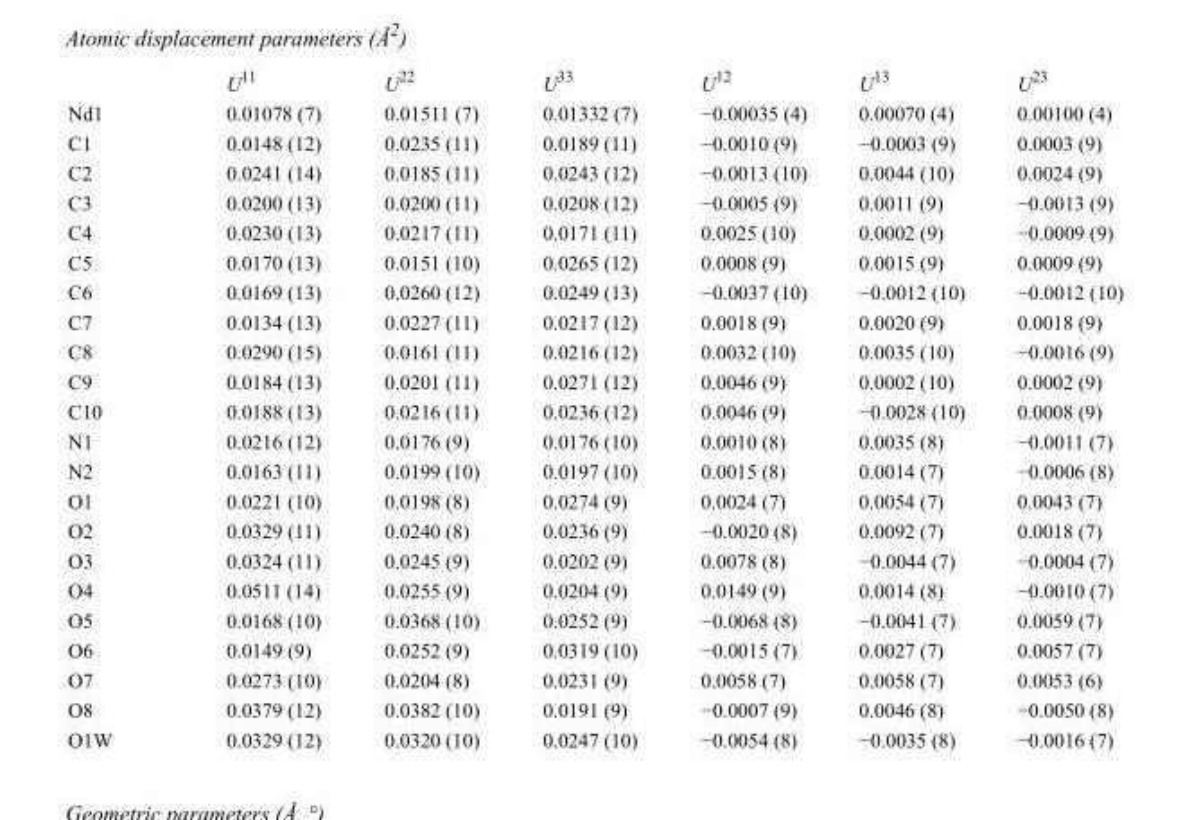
<table><thead><tr><td></td><td>U<sup>11</sup></td><td>U<sup>22</sup></td><td>U<sup>33</sup></td><td>U<sup>12</sup></td><td>U<sup>13</sup></td><td>U<sup>23</sup></td></tr></thead><tbody><tr><td>Nd1</td><td>0.01078 (7)</td><td>0.01511 (7)</td><td>0.01332 (7)</td><td>−0.00035 (4)</td><td>0.00070 (4)</td><td>0.00100 (4)</td></tr><tr><td>C1</td><td>0.0148 (12)</td><td>0.0235 (11)</td><td>0.0189 (11)</td><td>−0.0010 (9)</td><td>−0.0003 (9)</td><td>0.0003 (9)</td></tr><tr><td>C2</td><td>0.0241 (14)</td><td>0.0185 (11)</td><td>0.0243 (12)</td><td>−0.0013 (10)</td><td>0.0044 (10)</td><td>0.0024 (9)</td></tr><tr><td>C3</td><td>0.0200 (13)</td><td>0.0200 (11)</td><td>0.0208 (12)</td><td>−0.0005 (9)</td><td>0.0011 (9)</td><td>−0.0013 (9)</td></tr><tr><td>C4</td><td>0.0230 (13)</td><td>0.0217 (11)</td><td>0.0171 (11)</td><td>0.0025 (10)</td><td>0.0002 (9)</td><td>−0.0009 (9)</td></tr><tr><td>C5</td><td>0.0170 (13)</td><td>0.0151 (10)</td><td>0.0265 (12)</td><td>0.0008 (9)</td><td>0.0015 (9)</td><td>0.0009 (9)</td></tr><tr><td>C6</td><td>0.0169 (13)</td><td>0.0260 (12)</td><td>0.0249 (13)</td><td>−0.0037 (10)</td><td>−0.0012 (10)</td><td>−0.0012 (10)</td></tr><tr><td>C7</td><td>0.0134 (13)</td><td>0.0227 (11)</td><td>0.0217 (12)</td><td>0.0018 (9)</td><td>0.0020 (9)</td><td>0.0018 (9)</td></tr><tr><td>C8</td><td>0.0290 (15)</td><td>0.0161 (11)</td><td>0.0216 (12)</td><td>0.0032 (10)</td><td>0.0035 (10)</td><td>−0.0016 (9)</td></tr><tr><td>C9</td><td>0.0184 (13)</td><td>0.0201 (11)</td><td>0.0271 (12)</td><td>0.0046 (9)</td><td>0.0002 (10)</td><td>0.0002 (9)</td></tr><tr><td>C10</td><td>0.0188 (13)</td><td>0.0216 (11)</td><td>0.0236 (12)</td><td>0.0046 (9)</td><td>−0.0028 (10)</td><td>0.0008 (9)</td></tr><tr><td>N1</td><td>0.0216 (12)</td><td>0.0176 (9)</td><td>0.0176 (10)</td><td>0.0010 (8)</td><td>0.0035 (8)</td><td>−0.0011 (7)</td></tr><tr><td>N2</td><td>0.0163 (11)</td><td>0.0199 (10)</td><td>0.0197 (10)</td><td>0.0015 (8)</td><td>0.0014 (7)</td><td>−0.0006 (8)</td></tr><tr><td>O1</td><td>0.0221 (10)</td><td>0.0198 (8)</td><td>0.0274 (9)</td><td>0.0024 (7)</td><td>0.0054 (7)</td><td>0.0043 (7)</td></tr><tr><td>O2</td><td>0.0329 (11)</td><td>0.0240 (8)</td><td>0.0236 (9)</td><td>−0.0020 (8)</td><td>0.0092 (7)</td><td>0.0018 (7)</td></tr><tr><td>O3</td><td>0.0324 (11)</td><td>0.0245 (9)</td><td>0.0202 (9)</td><td>0.0078 (8)</td><td>−0.0044 (7)</td><td>−0.0004 (7)</td></tr><tr><td>O4</td><td>0.0511 (14)</td><td>0.0255 (9)</td><td>0.0204 (9)</td><td>0.0149 (9)</td><td>0.0014 (8)</td><td>−0.0010 (7)</td></tr><tr><td>O5</td><td>0.0168 (10)</td><td>0.0368 (10)</td><td>0.0252 (9)</td><td>−0.0068 (8)</td><td>−0.0041 (7)</td><td>0.0059 (7)</td></tr><tr><td>O6</td><td>0.0149 (9)</td><td>0.0252 (9)</td><td>0.0319 (10)</td><td>−0.0015 (7)</td><td>0.0027 (7)</td><td>0.0057 (7)</td></tr><tr><td>O7</td><td>0.0273 (10)</td><td>0.0204 (8)</td><td>0.0231 (9)</td><td>0.0058 (7)</td><td>0.0058 (7)</td><td>0.0053 (6)</td></tr><tr><td>O8</td><td>0.0379 (12)</td><td>0.0382 (10)</td><td>0.0191 (9)</td><td>−0.0007 (9)</td><td>0.0046 (8)</td><td>−0.0050 (8)</td></tr><tr><td>O1W</td><td>0.0329 (12)</td><td>0.0320 (10)</td><td>0.0247 (10)</td><td>−0.0054 (8)</td><td>−0.0035 (8)</td><td>−0.0016 (7)</td></tr></tbody></table>